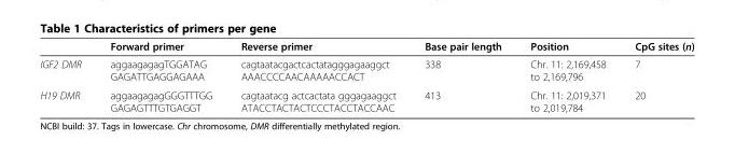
<table><thead><tr><td></td><td>Forward primer</td><td>Reverse primer</td><td>Base pair length</td><td>Position</td><td>CpG sites (n)</td></tr></thead><tbody><tr><td>IGF2 DMR</td><td>aggaagagagTGGATAG GAGATTGAGGAGAAA</td><td>cagtaatacgactcactatagggagaaggct AAACCCCAACAAAAACCACT</td><td>338</td><td>Chr. 11: 2,169,458 to 2,169,796</td><td>7</td></tr><tr><td>H19 DMR</td><td>aggaagagagGGGTTTGG GAGAGTTTGTGAGGT</td><td>cagtaatacg actcactata gggagaaggct ATACCTACTACTCCCTACCTACCAAC</td><td>413</td><td>Chr. 11: 2,019,371 to 2,019,784</td><td>20</td></tr></tbody></table>